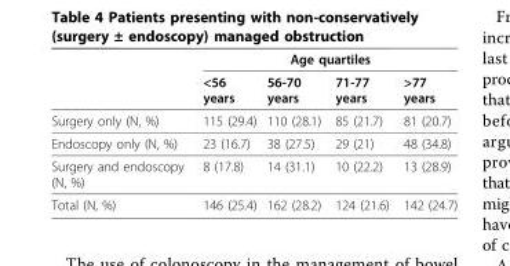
<table><thead><tr><td rowspan="2"></td><td colspan="4">Age quartiles</td></tr><tr><td>&lt;56 years</td><td>56-70 years</td><td>71-77 years</td><td>&gt;77 years</td></tr></thead><tbody><tr><td>Surgery only (N, %)</td><td>115 (29.4)</td><td>110 (28.1)</td><td>85 (21.7)</td><td>81 (20.7)</td></tr><tr><td>Endoscopy only (N, %)</td><td>23 (16.7)</td><td>38 (27.5)</td><td>29 (21)</td><td>48 (34.8)</td></tr><tr><td>Surgery and endoscopy (N, %)</td><td>8 (17.8)</td><td>14 (31.1)</td><td>10 (22.2)</td><td>13 (28.9)</td></tr><tr><td>Total (N, %)</td><td>146 (25.4)</td><td>162 (28.2)</td><td>124 (21.6)</td><td>142 (24.7)</td></tr></tbody></table>